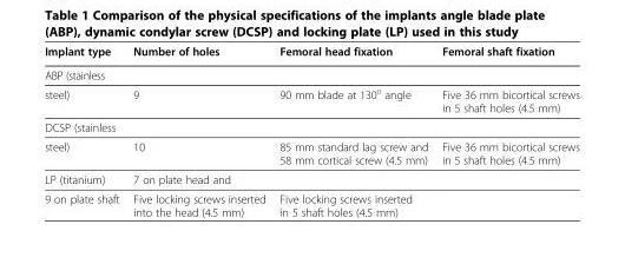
<table><thead><tr><td>Implant type</td><td>Number of holes</td><td>Femoral head fixation</td><td>Femoral shaft fixation</td></tr></thead><tbody><tr><td>ABP (stainless steel)</td><td>9</td><td>90 mm blade at 130° angle</td><td>Five 36 mm bicortical screws in 5 shaft holes (4.5 mm)</td></tr><tr><td>DCSP (stainless steel)</td><td>10</td><td>85 mm standard lag screw and 58 mm cortical screw (4.5 mm)</td><td>Five 36 mm bicortical screws in 5 shaft holes (4.5 mm)</td></tr><tr><td>LP (titanium)</td><td>7 on plate head and</td><td></td><td></td></tr><tr><td>9 on plate shaft</td><td>Five locking screws inserted into the head (4.5 mm)</td><td>Five locking screws inserted in 5 shaft holes (4.5 mm)</td><td></td></tr></tbody></table>